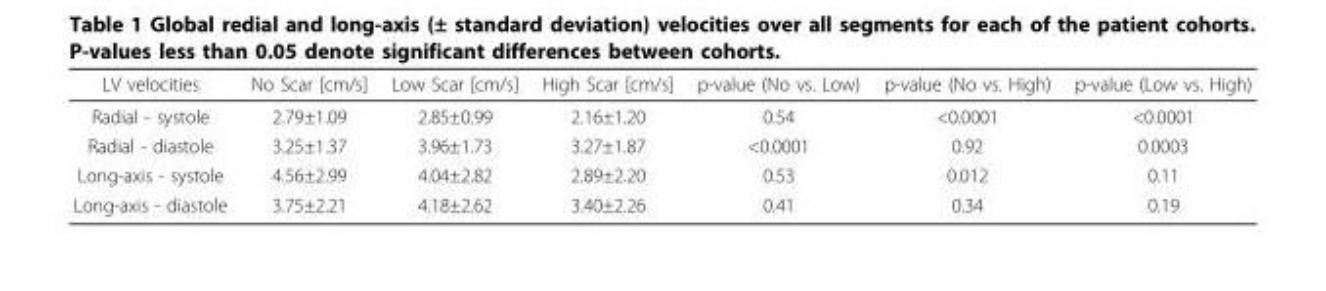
<table><thead><tr><td>LV velocities</td><td>No Scar [cm/s]</td><td>Low Scar [cm/s]</td><td>High Scar [cm/s]</td><td>p-value (No vs. Low)</td><td>p-value (No vs. High)</td><td>p-value (Low vs. High)</td></tr></thead><tbody><tr><td>Radial - systole</td><td>2.79±1.09</td><td>2.85±0.99</td><td>2.16±1.20</td><td>0.54</td><td>&lt;0.0001</td><td>&lt;0.0001</td></tr><tr><td>Radial - diastole</td><td>3.25±1.37</td><td>3.96±1.73</td><td>3.27±1.87</td><td>&lt;0.0001</td><td>0.92</td><td>0.0003</td></tr><tr><td>Long-axis - systole</td><td>4.56±2.99</td><td>4.04±2.82</td><td>2.89±2.20</td><td>0.53</td><td>0.012</td><td>0.11</td></tr><tr><td>Long-axis - diastole</td><td>3.75±2.21</td><td>4.18±2.62</td><td>3.40±2.26</td><td>0.41</td><td>0.34</td><td>0.19</td></tr></tbody></table>